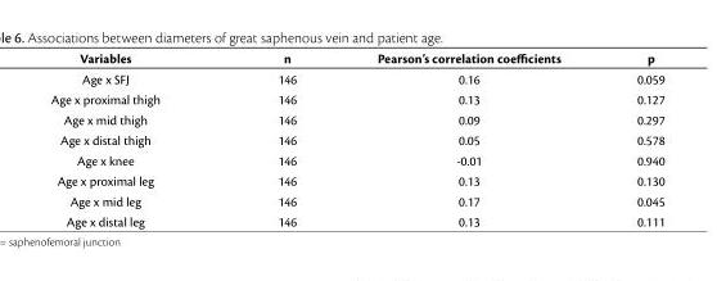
<table><thead><tr><td>Variables</td><td>n</td><td>Pearson’s correlation coefficients</td><td>p</td></tr></thead><tbody><tr><td>Age x SFJ</td><td>146</td><td>0.16</td><td>0.059</td></tr><tr><td>Age x proximal thigh</td><td>146</td><td>0.13</td><td>0.127</td></tr><tr><td>Age x mid thigh</td><td>146</td><td>0.09</td><td>0.297</td></tr><tr><td>Age x distal thigh</td><td>146</td><td>0.05</td><td>0.578</td></tr><tr><td>Age x knee</td><td>146</td><td>-0.01</td><td>0.940</td></tr><tr><td>Age x proximal leg</td><td>146</td><td>0.13</td><td>0.130</td></tr><tr><td>Age x mid leg</td><td>146</td><td>0.17</td><td>0.045</td></tr><tr><td>Age x distal leg</td><td>146</td><td>0.13</td><td>0.111</td></tr></tbody></table>